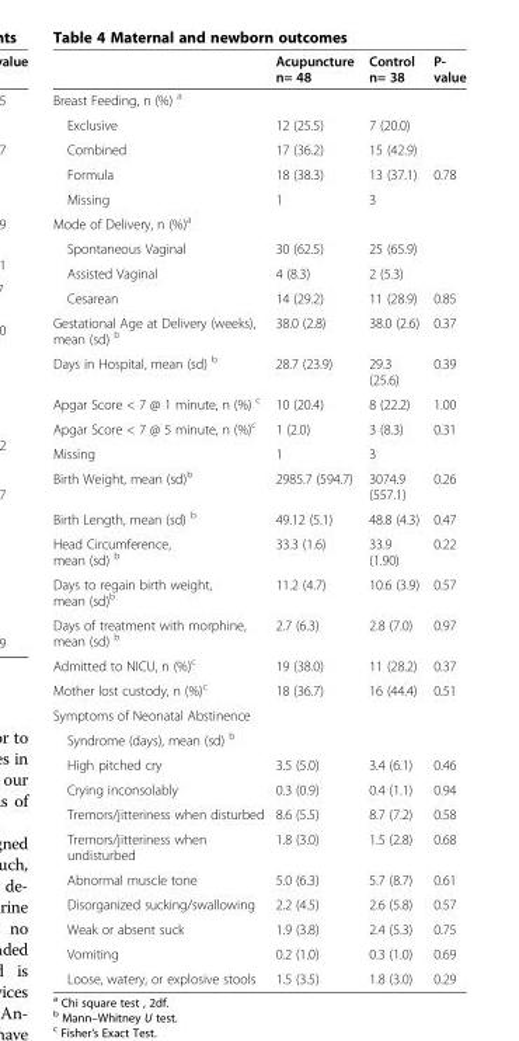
<table><thead><tr><td></td><td>Acupuncture n= 48</td><td>Control n= 38</td><td>P- value</td></tr></thead><tbody><tr><td colspan="4">Breast Feeding, n (%) <sup>a</sup></td></tr><tr><td>Exclusive</td><td>12 (25.5)</td><td>7 (20.0)</td><td></td></tr><tr><td>Combined</td><td>17 (36.2)</td><td>15 (42.9)</td><td></td></tr><tr><td>Formula</td><td>18 (38.3)</td><td>13 (37.1)</td><td>0.78</td></tr><tr><td>Missing</td><td>1</td><td>3</td><td></td></tr><tr><td colspan="4">Mode of Delivery, n (%)<sup>a</sup></td></tr><tr><td>Spontaneous Vaginal</td><td>30 (62.5)</td><td>25 (65.9)</td><td></td></tr><tr><td>Assisted Vaginal</td><td>4 (8.3)</td><td>2 (5.3)</td><td></td></tr><tr><td>Cesarean</td><td>14 (29.2)</td><td>11 (28.9)</td><td>0.85</td></tr><tr><td>Gestational Age at Delivery (weeks), mean (sd) <sup>b</sup></td><td>38.0 (2.8)</td><td>38.0 (2.6)</td><td>0.37</td></tr><tr><td>Days in Hospital, mean (sd) <sup>b</sup></td><td>28.7 (23.9)</td><td>29.3 (25.6)</td><td>0.39</td></tr><tr><td>Apgar Score &lt; 7 @ 1 minute, n (%) <sup>c</sup></td><td>10 (20.4)</td><td>8 (22.2)</td><td>1.00</td></tr><tr><td>Apgar Score &lt; 7 @ 5 minute, n (%)<sup>c</sup></td><td>1 (2.0)</td><td>3 (8.3)</td><td>0.31</td></tr><tr><td>Missing</td><td>1</td><td>3</td><td></td></tr><tr><td>Birth Weight, mean (sd)<sup>b</sup></td><td>2985.7 (594.7)</td><td>3074.9 (557.1)</td><td>0.26</td></tr><tr><td>Birth Length, mean (sd) <sup>b</sup></td><td>49.12 (5.1)</td><td>48.8 (4.3)</td><td>0.47</td></tr><tr><td>Head Circumference, mean (sd) <sup>b</sup></td><td>33.3 (1.6)</td><td>33.9 (1.90)</td><td>0.22</td></tr><tr><td>Days to regain birth weight, mean (sd)<sup>b</sup></td><td>11.2 (4.7)</td><td>10.6 (3.9)</td><td>0.57</td></tr><tr><td>Days of treatment with morphine, mean (sd) <sup>b</sup></td><td>2.7 (6.3)</td><td>2.8 (7.0)</td><td>0.97</td></tr><tr><td>Admitted to NICU, n (%)<sup>c</sup></td><td>19 (38.0)</td><td>11 (28.2)</td><td>0.37</td></tr><tr><td>Mother lost custody, n (%)<sup>c</sup></td><td>18 (36.7)</td><td>16 (44.4)</td><td>0.51</td></tr><tr><td colspan="4">Symptoms of Neonatal Abstinence</td></tr><tr><td colspan="4">Syndrome (days), mean (sd) <sup>b</sup></td></tr><tr><td>High pitched cry</td><td>3.5 (5.0)</td><td>3.4 (6.1)</td><td>0.46</td></tr><tr><td>Crying inconsolably</td><td>0.3 (0.9)</td><td>0.4 (1.1)</td><td>0.94</td></tr><tr><td>Tremors/jitteriness when disturbed</td><td>8.6 (5.5)</td><td>8.7 (7.2)</td><td>0.58</td></tr><tr><td>Tremors/jitteriness when undisturbed</td><td>1.8 (3.0)</td><td>1.5 (2.8)</td><td>0.68</td></tr><tr><td>Abnormal muscle tone</td><td>5.0 (6.3)</td><td>5.7 (8.7)</td><td>0.61</td></tr><tr><td>Disorganized sucking/swallowing</td><td>2.2 (4.5)</td><td>2.6 (5.8)</td><td>0.57</td></tr><tr><td>Weak or absent suck</td><td>1.9 (3.8)</td><td>2.4 (5.3)</td><td>0.75</td></tr><tr><td>Vomiting</td><td>0.2 (1.0)</td><td>0.3 (1.0)</td><td>0.69</td></tr><tr><td>Loose, watery, or explosive stools</td><td>1.5 (3.5)</td><td>1.8 (3.0)</td><td>0.29</td></tr></tbody></table>